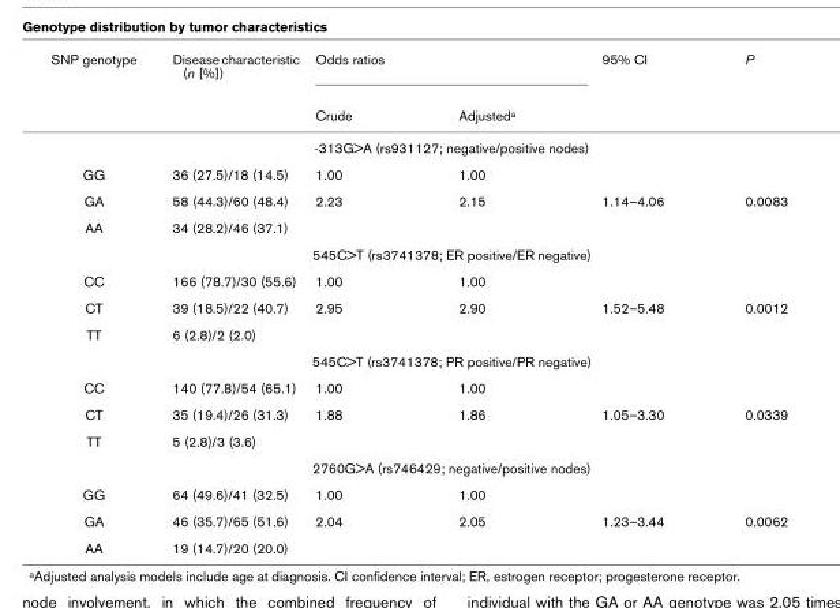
<table><thead><tr><td rowspan="2">SNP genotype</td><td rowspan="2">Disease characteristic (n [%])</td><td colspan="2">Odds ratios</td><td rowspan="2">95% CI</td><td rowspan="2">P</td></tr><tr><td>Crude</td><td>Adjusteda</td></tr></thead><tbody><tr><td colspan="6">-313G&gt;A (rs931127; negative/positive nodes)</td></tr><tr><td>GG</td><td>36 (27.5)/18 (14.5)</td><td>1.00</td><td>1.00</td><td></td><td></td></tr><tr><td>GA</td><td>58 (44.3)/60 (48.4)</td><td>2.23</td><td>2.15</td><td>1.14–4.06</td><td>0.0083</td></tr><tr><td>AA</td><td>34 (28.2)/46 (37.1)</td><td></td><td></td><td></td><td></td></tr><tr><td colspan="6">545C&gt;T (rs3741378; ER positive/ER negative)</td></tr><tr><td>CC</td><td>166 (78.7)/30 (55.6)</td><td>1.00</td><td>1.00</td><td></td><td></td></tr><tr><td>CT</td><td>39 (18.5)/22 (40.7)</td><td>2.95</td><td>2.90</td><td>1.52–5.48</td><td>0.0012</td></tr><tr><td>TT</td><td>6 (2.8)/2 (2.0)</td><td></td><td></td><td></td><td></td></tr><tr><td colspan="6">545C&gt;T (rs3741378; PR positive/PR negative)</td></tr><tr><td>CC</td><td>140 (77.8)/54 (65.1)</td><td>1.00</td><td>1.00</td><td></td><td></td></tr><tr><td>CT</td><td>35 (19.4)/26 (31.3)</td><td>1.88</td><td>1.86</td><td>1.05–3.30</td><td>0.0339</td></tr><tr><td>TT</td><td>5 (2.8)/3 (3.6)</td><td></td><td></td><td></td><td></td></tr><tr><td colspan="6">2760G&gt;A (rs746429; negative/positive nodes)</td></tr><tr><td>GG</td><td>64 (49.6)/41 (32.5)</td><td>1.00</td><td>1.00</td><td></td><td></td></tr><tr><td>GA</td><td>46 (35.7)/65 (51.6)</td><td>2.04</td><td>2.05</td><td>1.23–3.44</td><td>0.0062</td></tr><tr><td>AA</td><td>19 (14.7)/20 (20.0)</td><td></td><td></td><td></td><td></td></tr></tbody></table>